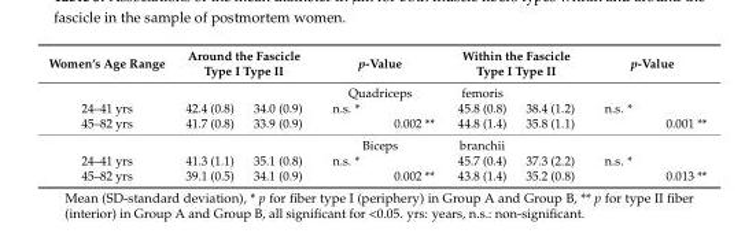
<table><thead><tr><td rowspan="3">Women’s Age Range 24–41 yrs</td><td colspan="2">Around the Fascicle Type I Type II</td><td rowspan="2" colspan="2">p-Value Quadriceps</td><td colspan="2">Within the Fascicle Type I Type II</td><td rowspan="2" colspan="2">p-Value</td></tr><tr><td rowspan="2">42.4 (0.8)</td><td rowspan="2">34.0 (0.9)</td><td rowspan="2">femoris 45.8 (0.8)</td><td rowspan="2">38.4 (1.2)</td></tr><tr><td>n.s. *</td><td></td><td>n.s. *</td><td></td></tr></thead><tbody><tr><td rowspan="2">45–82 yrs</td><td>41.7 (0.8)</td><td>33.9 (0.9)</td><td></td><td>0.002 **</td><td>44.8 (1.4)</td><td>35.8 (1.1)</td><td></td><td>0.001 **</td></tr><tr><td></td><td></td><td colspan="2">Biceps</td><td>branchii</td><td></td><td colspan="2"></td></tr><tr><td>24–41 yrs</td><td>41.3 (1.1)</td><td>35.1 (0.8)</td><td>n.s. *</td><td></td><td>45.7 (0.4)</td><td>37.3 (2.2)</td><td>n.s. *</td><td></td></tr><tr><td>45–82 yrs</td><td>39.1 (0.5)</td><td>34.1 (0.9)</td><td></td><td>0.002 **</td><td>43.8 (1.4)</td><td>35.2 (0.8)</td><td></td><td>0.013 **</td></tr></tbody></table>